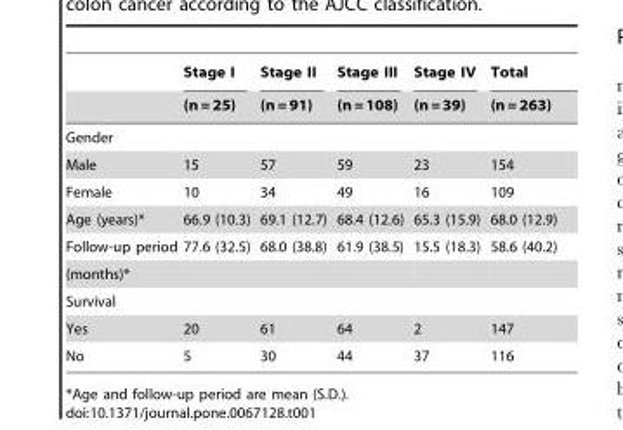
<table><thead><tr><td rowspan="2"></td><td rowspan="2">Stage I (n = 25)</td><td rowspan="2">Stage II (n = 91)</td><td rowspan="2">Stage III (n = 108)</td><td rowspan="2">Stage IV (n = 39)</td><td rowspan="2">Total (n = 263)</td></tr><tr></tr></thead><tbody><tr><td colspan="6">Gender</td></tr><tr><td>Male</td><td>15</td><td>57</td><td>59</td><td>23</td><td>154</td></tr><tr><td>Female</td><td>10</td><td>34</td><td>49</td><td>16</td><td>109</td></tr><tr><td>Age (years)*</td><td>66.9 (10.3)</td><td>69.1 (12.7)</td><td>68.4 (12.6)</td><td>65.3 (15.9)</td><td>68.0 (12.9)</td></tr><tr><td>Follow-up period</td><td>77.6 (32.5)</td><td>68.0 (38.8)</td><td>61.9 (38.5)</td><td>15.5 (18.3)</td><td>58.6 (40.2)</td></tr><tr><td colspan="6">(months)*</td></tr><tr><td colspan="6">Survival</td></tr><tr><td>Yes</td><td>20</td><td>61</td><td>64</td><td>2</td><td>147</td></tr><tr><td>No</td><td>5</td><td>30</td><td>44</td><td>37</td><td>116</td></tr></tbody></table>